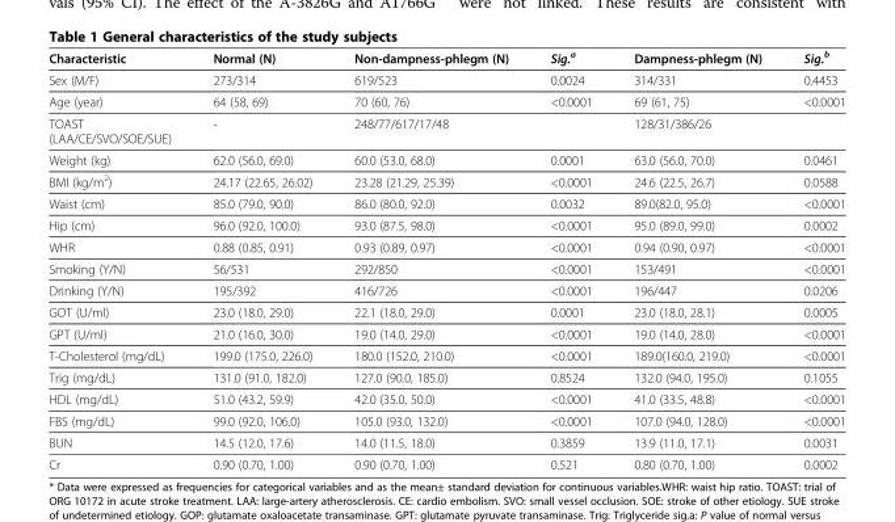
<table><thead><tr><td>Characteristic</td><td>Normal (N)</td><td>Non-dampness-phlegm (N)</td><td>Sig.<sup>a</sup></td><td>Dampness-phlegm (N)</td><td>Sig.<sup>b</sup></td></tr></thead><tbody><tr><td>Sex (M/F)</td><td>273/314</td><td>619/523</td><td>0.0024</td><td>314/331</td><td>0.4453</td></tr><tr><td>Age (year)</td><td>64 (58, 69)</td><td>70 (60, 76)</td><td>&lt;0.0001</td><td>69 (61, 75)</td><td>&lt;0.0001</td></tr><tr><td>TOAST (LAA/CE/SVO/SOE/SUE)</td><td>-</td><td>248/77/617/17/48</td><td></td><td>128/31/386/26</td><td></td></tr><tr><td>Weight (kg)</td><td>62.0 (56.0, 69.0)</td><td>60.0 (53.0, 68.0)</td><td>0.0001</td><td>63.0 (56.0, 70.0)</td><td>0.0461</td></tr><tr><td>BMI (kg/m<sup>2</sup>)</td><td>24.17 (22.65, 26.02)</td><td>23.28 (21.29, 25.39)</td><td>&lt;0.0001</td><td>24.6 (22.5, 26.7)</td><td>0.0588</td></tr><tr><td>Waist (cm)</td><td>85.0 (79.0, 90.0)</td><td>86.0 (80.0, 92.0)</td><td>0.0032</td><td>89.0(82.0, 95.0)</td><td>&lt;0.0001</td></tr><tr><td>Hip (cm)</td><td>96.0 (92.0, 100.0)</td><td>93.0 (87.5, 98.0)</td><td>&lt;0.0001</td><td>95.0 (89.0, 99.0)</td><td>0.0002</td></tr><tr><td>WHR</td><td>0.88 (0.85, 0.91)</td><td>0.93 (0.89, 0.97)</td><td>&lt;0.0001</td><td>0.94 (0.90, 0.97)</td><td>&lt;0.0001</td></tr><tr><td>Smoking (Y/N)</td><td>56/531</td><td>292/850</td><td>&lt;0.0001</td><td>153/491</td><td>&lt;0.0001</td></tr><tr><td>Drinking (Y/N)</td><td>195/392</td><td>416/726</td><td>&lt;0.0001</td><td>196/447</td><td>0.0206</td></tr><tr><td>GOT (U/ml)</td><td>23.0 (18.0, 29.0)</td><td>22.1 (18.0, 29.0)</td><td>0.0001</td><td>23.0 (18.0, 28.1)</td><td>0.0005</td></tr><tr><td>GPT (U/ml)</td><td>21.0 (16.0, 30.0)</td><td>19.0 (14.0, 29.0)</td><td>&lt;0.0001</td><td>19.0 (14.0, 28.0)</td><td>&lt;0.0001</td></tr><tr><td>T-Cholesterol (mg/dL)</td><td>199.0 (175.0, 226.0)</td><td>180.0 (152.0, 210.0)</td><td>&lt;0.0001</td><td>189.0(160.0, 219.0)</td><td>&lt;0.0001</td></tr><tr><td>Trig (mg/dL)</td><td>131.0 (91.0, 182.0)</td><td>127.0 (90.0, 185.0)</td><td>0.8524</td><td>132.0 (94.0, 195.0)</td><td>0.1055</td></tr><tr><td>HDL (mg/dL)</td><td>51.0 (43.2, 59.9)</td><td>42.0 (35.0, 50.0)</td><td>&lt;0.0001</td><td>41.0 (33.5, 48.8)</td><td>&lt;0.0001</td></tr><tr><td>FBS (mg/dL)</td><td>99.0 (92.0, 106.0)</td><td>105.0 (93.0, 132.0)</td><td>&lt;0.0001</td><td>107.0 (94.0, 128.0)</td><td>&lt;0.0001</td></tr><tr><td>BUN</td><td>14.5 (12.0, 17.6)</td><td>14.0 (11.5, 18.0)</td><td>0.3859</td><td>13.9 (11.0, 17.1)</td><td>0.0031</td></tr><tr><td>Cr</td><td>0.90 (0.70, 1.00)</td><td>0.90 (0.70, 1.00)</td><td>0.521</td><td>0.80 (0.70, 1.00)</td><td>0.0002</td></tr></tbody></table>